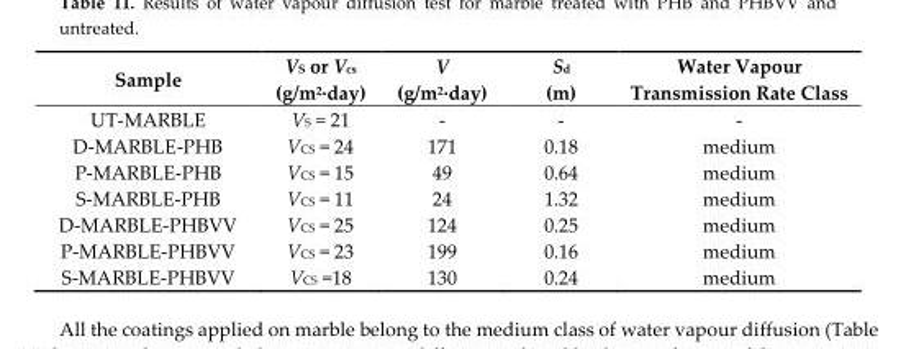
<table><thead><tr><td>Sample</td><td>V<sub>S</sub> or V<sub>cs</sub> (g/m<sup>2</sup>·day)</td><td>V (g/m<sup>2</sup>·day)</td><td>S<sub>d</sub> (m)</td><td>Water Vapour Transmission Rate Class</td></tr></thead><tbody><tr><td>UT-MARBLE</td><td>V<sub>S</sub> = 21</td><td>-</td><td>-</td><td>-</td></tr><tr><td>D-MARBLE-PHB</td><td>V<sub>CS</sub> = 24</td><td>171</td><td>0.18</td><td>medium</td></tr><tr><td>P-MARBLE-PHB</td><td>V<sub>CS</sub> = 15</td><td>49</td><td>0.64</td><td>medium</td></tr><tr><td>S-MARBLE-PHB</td><td>V<sub>CS</sub> = 11</td><td>24</td><td>1.32</td><td>medium</td></tr><tr><td>D-MARBLE-PHBVV</td><td>V<sub>CS</sub> = 25</td><td>124</td><td>0.25</td><td>medium</td></tr><tr><td>P-MARBLE-PHBVV</td><td>V<sub>CS</sub> = 23</td><td>199</td><td>0.16</td><td>medium</td></tr><tr><td>S-MARBLE-PHBVV</td><td>V<sub>CS</sub> =18</td><td>130</td><td>0.24</td><td>medium</td></tr></tbody></table>